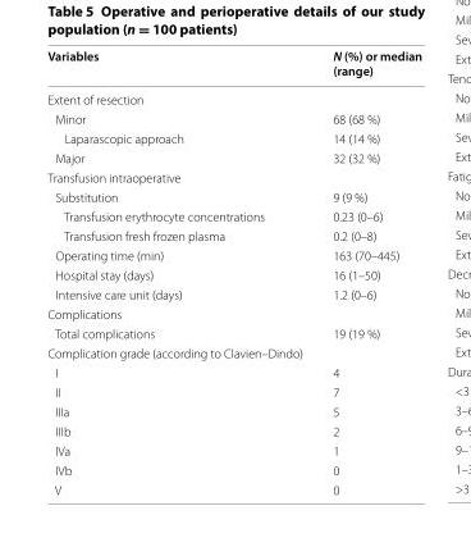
<table><thead><tr><td>Variables</td><td>N (%) or median (range)</td></tr></thead><tbody><tr><td colspan="2">Extent of resection</td></tr><tr><td>Minor</td><td>68 (68 %)</td></tr><tr><td>Laparascopic approach</td><td>14 (14 %)</td></tr><tr><td>Major</td><td>32 (32 %)</td></tr><tr><td colspan="2">Transfusion intraoperative</td></tr><tr><td>Substitution</td><td>9 (9 %)</td></tr><tr><td>Transfusion erythrocyte concentrations</td><td>0.23 (0–6)</td></tr><tr><td>Transfusion fresh frozen plasma</td><td>0.2 (0–8)</td></tr><tr><td>Operating time (min)</td><td>163 (70–445)</td></tr><tr><td>Hospital stay (days)</td><td>16 (1–50)</td></tr><tr><td>Intensive care unit (days)</td><td>1.2 (0–6)</td></tr><tr><td colspan="2">Complications</td></tr><tr><td>Total complications</td><td>19 (19 %)</td></tr><tr><td colspan="2">Complication grade (according to Clavien–Dindo)</td></tr><tr><td>I</td><td>4</td></tr><tr><td>II</td><td>7</td></tr><tr><td>IIIa</td><td>5</td></tr><tr><td>IIIb</td><td>2</td></tr><tr><td>IVa</td><td>1</td></tr><tr><td>IVb</td><td>0</td></tr><tr><td>V</td><td>0</td></tr></tbody></table>